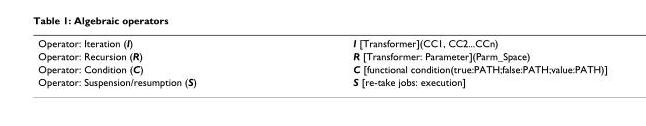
<table><tbody><tr><td>Operator: Iteration (I)</td><td>I [Transformer](CC1, CC2...CCn)</td></tr><tr><td>Operator: Recursion (R)</td><td>R [Transformer: Parameter](Parm_Space)</td></tr><tr><td>Operator: Condition (C)</td><td>C [functional condition(true:PATH;false:PATH;value:PATH)]</td></tr><tr><td>Operator: Suspension/resumption (S)</td><td>S [re-take jobs: execution]</td></tr></tbody></table>